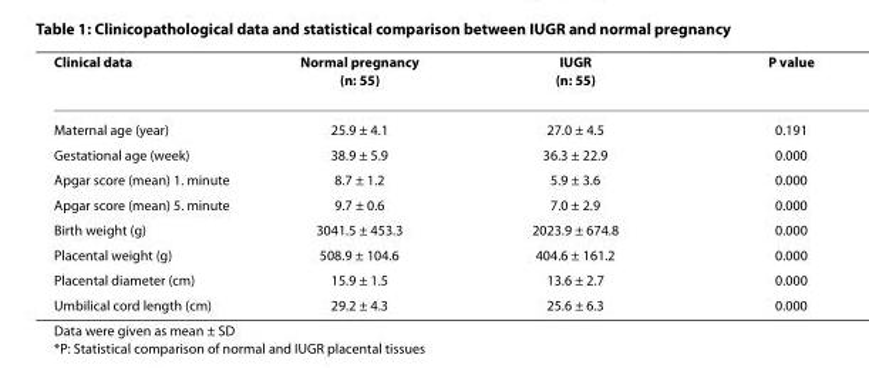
<table><thead><tr><td>Clinical data</td><td>Normal pregnancy (n: 55)</td><td>IUGR (n: 55)</td><td>P value</td></tr></thead><tbody><tr><td>Maternal age (year)</td><td>25.9 ± 4.1</td><td>27.0 ± 4.5</td><td>0.191</td></tr><tr><td>Gestational age (week)</td><td>38.9 ± 5.9</td><td>36.3 ± 22.9</td><td>0.000</td></tr><tr><td>Apgar score (mean) 1. minute</td><td>8.7 ± 1.2</td><td>5.9 ± 3.6</td><td>0.000</td></tr><tr><td>Apgar score (mean) 5. minute</td><td>9.7 ± 0.6</td><td>7.0 ± 2.9</td><td>0.000</td></tr><tr><td>Birth weight (g)</td><td>3041.5 ± 453.3</td><td>2023.9 ± 674.8</td><td>0.000</td></tr><tr><td>Placental weight (g)</td><td>508.9 ± 104.6</td><td>404.6 ± 161.2</td><td>0.000</td></tr><tr><td>Placental diameter (cm)</td><td>15.9 ± 1.5</td><td>13.6 ± 2.7</td><td>0.000</td></tr><tr><td>Umbilical cord length (cm)</td><td>29.2 ± 4.3</td><td>25.6 ± 6.3</td><td>0.000</td></tr></tbody></table>